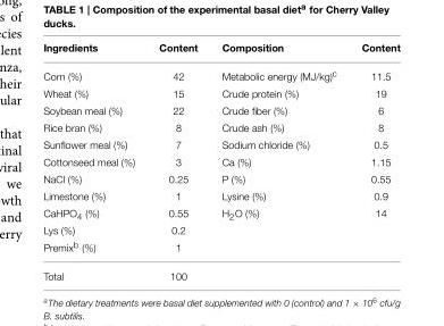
<table><thead><tr><td>Ingredients</td><td>Content</td><td>Composition</td><td>Content</td></tr></thead><tbody><tr><td>Corn (%)</td><td>42</td><td>Metabolic energy (MJ/kg)<sup>c</sup></td><td>11.5</td></tr><tr><td>Wheat (%)</td><td>15</td><td>Crude protein (%)</td><td>19</td></tr><tr><td>Soybean meal (%)</td><td>22</td><td>Crude fiber (%)</td><td>6</td></tr><tr><td>Rice bran (%)</td><td>8</td><td>Crude ash (%)</td><td>8</td></tr><tr><td>Sunflower meal (%)</td><td>7</td><td>Sodium chloride (%)</td><td>0.5</td></tr><tr><td>Cottonseed meal (%)</td><td>3</td><td>Ca (%)</td><td>1.15</td></tr><tr><td>NaCl (%)</td><td>0.25</td><td>P (%)</td><td>0.55</td></tr><tr><td>Limestone (%)</td><td>1</td><td>Lysine (%)</td><td>0.9</td></tr><tr><td>CaHPO<sub>4</sub> (%)</td><td>0.55</td><td>H<sub>2</sub>O (%)</td><td>14</td></tr><tr><td>Lys (%)</td><td>0.2</td><td></td><td></td></tr><tr><td>Premix<sup>b</sup> (%)</td><td>1</td><td></td><td></td></tr><tr><td>Total</td><td>100</td><td></td><td></td></tr></tbody></table>